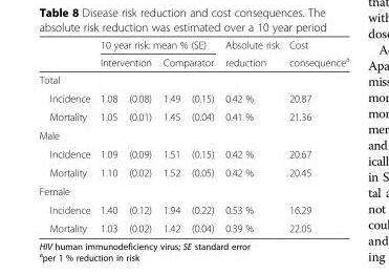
<table><thead><tr><td rowspan="3">Total</td><td colspan="4">10 year risk: mean % (SE)</td><td rowspan="3">Absolute risk reduction</td><td rowspan="3">Cost consequence<sup>a</sup></td></tr><tr><td colspan="2">Intervention</td><td colspan="2">Comparator</td></tr><tr><td></td><td></td><td></td><td></td></tr></thead><tbody><tr><td>Incidence</td><td>1.08</td><td>(0.08)</td><td>1.49</td><td>(0.15)</td><td>0.42 %</td><td>20.87</td></tr><tr><td>Mortality</td><td>1.05</td><td>(0.01)</td><td>1.45</td><td>(0.04)</td><td>0.41 %</td><td>21.36</td></tr><tr><td colspan="7">Male</td></tr><tr><td>Incidence</td><td>1.09</td><td>(0.09)</td><td>1.51</td><td>(0.15)</td><td>0.42 %</td><td>20.67</td></tr><tr><td>Mortality</td><td>1.10</td><td>(0.02)</td><td>1.52</td><td>(0.05)</td><td>0.42 %</td><td>20.45</td></tr><tr><td colspan="7">Female</td></tr><tr><td>Incidence</td><td>1.40</td><td>(0.12)</td><td>1.94</td><td>(0.22)</td><td>0.53 %</td><td>16.29</td></tr><tr><td>Mortality</td><td>1.03</td><td>(0.02)</td><td>1.42</td><td>(0.04)</td><td>0.39 %</td><td>22.05</td></tr></tbody></table>